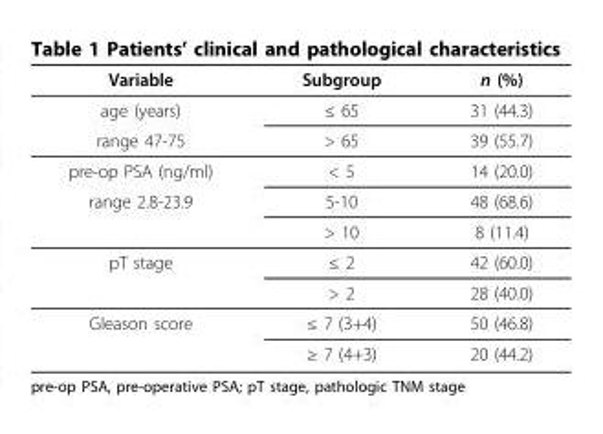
<table><thead><tr><td>Variable</td><td>Subgroup</td><td>n (%)</td></tr></thead><tbody><tr><td>age (years)</td><td>≤ 65</td><td>31 (44.3)</td></tr><tr><td>range 47-75</td><td>&gt; 65</td><td>39 (55.7)</td></tr><tr><td>pre-op PSA (ng/ml)</td><td>&lt; 5</td><td>14 (20.0)</td></tr><tr><td rowspan="2">range 2.8-23.9</td><td>5-10</td><td>48 (68.6)</td></tr><tr><td>&gt; 10</td><td>8 (11.4)</td></tr><tr><td rowspan="2">pT stage</td><td>≤ 2</td><td>42 (60.0)</td></tr><tr><td>&gt; 2</td><td>28 (40.0)</td></tr><tr><td rowspan="2">Gleason score</td><td>≤ 7 (3+4)</td><td>50 (46.8)</td></tr><tr><td>≥ 7 (4+3)</td><td>20 (44.2)</td></tr></tbody></table>